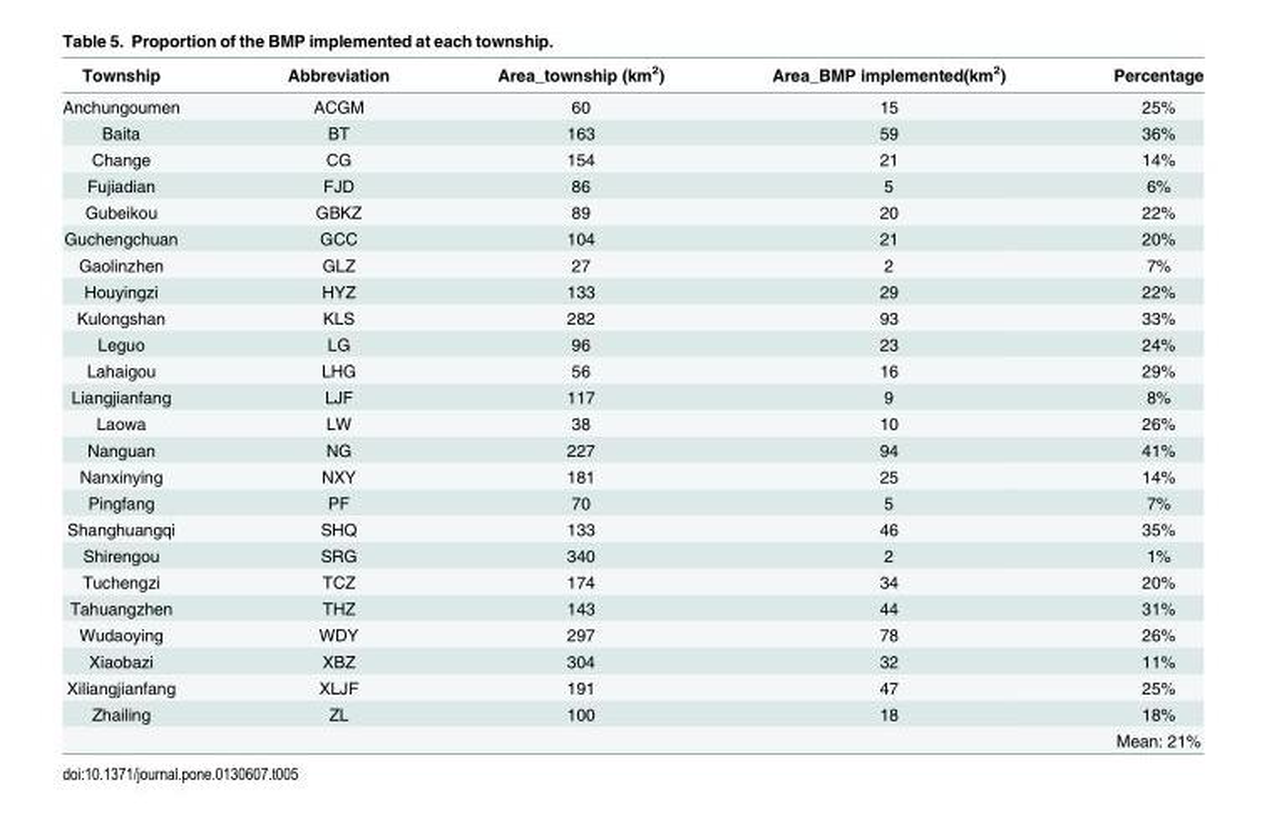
<table><thead><tr><td>Township</td><td>Abbreviation</td><td>Area_township (km<sup>2</sup>)</td><td>Area_BMP implemented(km<sup>2</sup>)</td><td>Percentage</td></tr></thead><tbody><tr><td>Anchungoumen</td><td>ACGM</td><td>60</td><td>15</td><td>25%</td></tr><tr><td>Baita</td><td>BT</td><td>163</td><td>59</td><td>36%</td></tr><tr><td>Change</td><td>CG</td><td>154</td><td>21</td><td>14%</td></tr><tr><td>Fujiadian</td><td>FJD</td><td>86</td><td>5</td><td>6%</td></tr><tr><td>Gubeikou</td><td>GBKZ</td><td>89</td><td>20</td><td>22%</td></tr><tr><td>Guchengchuan</td><td>GCC</td><td>104</td><td>21</td><td>20%</td></tr><tr><td>Gaolinzhen</td><td>GLZ</td><td>27</td><td>2</td><td>7%</td></tr><tr><td>Houyingzi</td><td>HYZ</td><td>133</td><td>29</td><td>22%</td></tr><tr><td>Kulongshan</td><td>KLS</td><td>282</td><td>93</td><td>33%</td></tr><tr><td>Leguo</td><td>LG</td><td>96</td><td>23</td><td>24%</td></tr><tr><td>Lahaigou</td><td>LHG</td><td>56</td><td>16</td><td>29%</td></tr><tr><td>Liangjianfang</td><td>LJF</td><td>117</td><td>9</td><td>8%</td></tr><tr><td>Laowa</td><td>LW</td><td>38</td><td>10</td><td>26%</td></tr><tr><td>Nanguan</td><td>NG</td><td>227</td><td>94</td><td>41%</td></tr><tr><td>Nanxinying</td><td>NXY</td><td>181</td><td>25</td><td>14%</td></tr><tr><td>Pingfang</td><td>PF</td><td>70</td><td>5</td><td>7%</td></tr><tr><td>Shanghuangqi</td><td>SHQ</td><td>133</td><td>46</td><td>35%</td></tr><tr><td>Shirengou</td><td>SRG</td><td>340</td><td>2</td><td>1%</td></tr><tr><td>Tuchengzi</td><td>TCZ</td><td>174</td><td>34</td><td>20%</td></tr><tr><td>Tahuangzhen</td><td>THZ</td><td>143</td><td>44</td><td>31%</td></tr><tr><td>Wudaoying</td><td>WDY</td><td>297</td><td>78</td><td>26%</td></tr><tr><td>Xiaobazi</td><td>XBZ</td><td>304</td><td>32</td><td>11%</td></tr><tr><td>Xiliangjianfang</td><td>XLJF</td><td>191</td><td>47</td><td>25%</td></tr><tr><td rowspan="2">Zhailing</td><td>ZL</td><td>100</td><td>18</td><td>18%</td></tr><tr><td></td><td></td><td></td><td>Mean: 21%</td></tr></tbody></table>